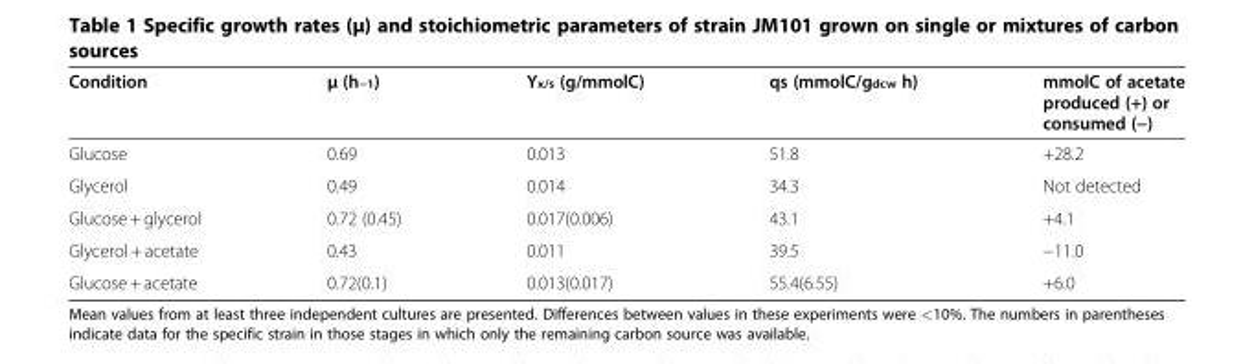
<table><thead><tr><td>Condition</td><td>μ (h<sup>−1</sup>)</td><td>Y<sub>x/s</sub> (g/mmolC)</td><td>qs (mmolC/g<sub>dcw</sub> h)</td><td>mmolC of acetate produced (+) or consumed (−)</td></tr></thead><tbody><tr><td>Glucose</td><td>0.69</td><td>0.013</td><td>51.8</td><td>+28.2</td></tr><tr><td>Glycerol</td><td>0.49</td><td>0.014</td><td>34.3</td><td>Not detected</td></tr><tr><td>Glucose + glycerol</td><td>0.72 (0.45)</td><td>0.017(0.006)</td><td>43.1</td><td>+4.1</td></tr><tr><td>Glycerol + acetate</td><td>0.43</td><td>0.011</td><td>39.5</td><td>−11.0</td></tr><tr><td>Glucose + acetate</td><td>0.72(0.1)</td><td>0.013(0.017)</td><td>55.4(6.55)</td><td>+6.0</td></tr></tbody></table>